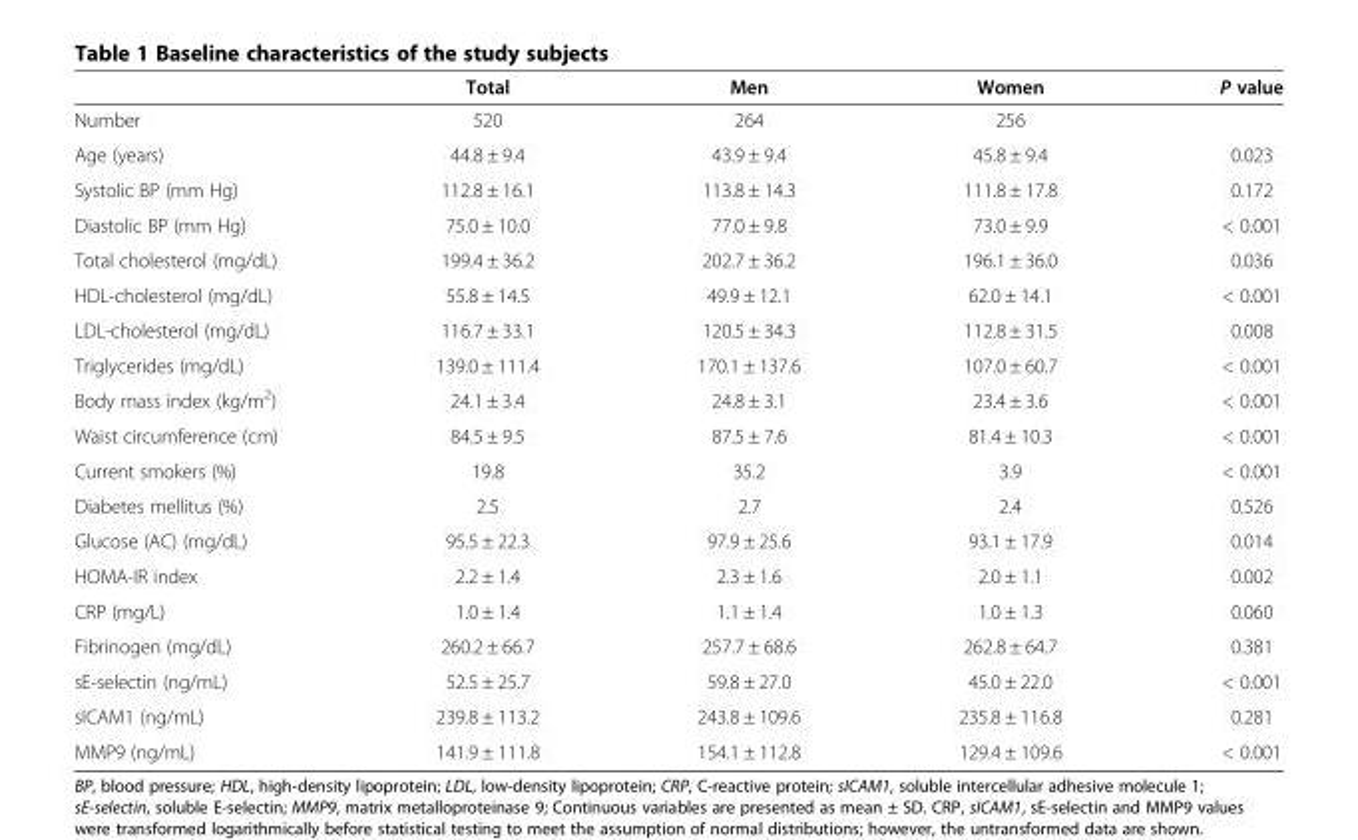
<table><thead><tr><td></td><td>Total</td><td>Men</td><td>Women</td><td>P value</td></tr></thead><tbody><tr><td>Number</td><td>520</td><td>264</td><td>256</td><td></td></tr><tr><td>Age (years)</td><td>44.8 ± 9.4</td><td>43.9 ± 9.4</td><td>45.8 ± 9.4</td><td>0.023</td></tr><tr><td>Systolic BP (mm Hg)</td><td>112.8 ± 16.1</td><td>113.8 ± 14.3</td><td>111.8 ± 17.8</td><td>0.172</td></tr><tr><td>Diastolic BP (mm Hg)</td><td>75.0 ± 10.0</td><td>77.0 ± 9.8</td><td>73.0 ± 9.9</td><td>&lt; 0.001</td></tr><tr><td>Total cholesterol (mg/dL)</td><td>199.4 ± 36.2</td><td>202.7 ± 36.2</td><td>196.1 ± 36.0</td><td>0.036</td></tr><tr><td>HDL-cholesterol (mg/dL)</td><td>55.8 ± 14.5</td><td>49.9 ± 12.1</td><td>62.0 ± 14.1</td><td>&lt; 0.001</td></tr><tr><td>LDL-cholesterol (mg/dL)</td><td>116.7 ± 33.1</td><td>120.5 ± 34.3</td><td>112.8 ± 31.5</td><td>0.008</td></tr><tr><td>Triglycerides (mg/dL)</td><td>139.0 ± 111.4</td><td>170.1 ± 137.6</td><td>107.0 ± 60.7</td><td>&lt; 0.001</td></tr><tr><td>Body mass index (kg/m<sup>2</sup>)</td><td>24.1 ± 3.4</td><td>24.8 ± 3.1</td><td>23.4 ± 3.6</td><td>&lt; 0.001</td></tr><tr><td>Waist circumference (cm)</td><td>84.5 ± 9.5</td><td>87.5 ± 7.6</td><td>81.4 ± 10.3</td><td>&lt; 0.001</td></tr><tr><td>Current smokers (%)</td><td>19.8</td><td>35.2</td><td>3.9</td><td>&lt; 0.001</td></tr><tr><td>Diabetes mellitus (%)</td><td>2.5</td><td>2.7</td><td>2.4</td><td>0.526</td></tr><tr><td>Glucose (AC) (mg/dL)</td><td>95.5 ± 22.3</td><td>97.9 ± 25.6</td><td>93.1 ± 17.9</td><td>0.014</td></tr><tr><td>HOMA-IR index</td><td>2.2 ± 1.4</td><td>2.3 ± 1.6</td><td>2.0 ± 1.1</td><td>0.002</td></tr><tr><td>CRP (mg/L)</td><td>1.0 ± 1.4</td><td>1.1 ± 1.4</td><td>1.0 ± 1.3</td><td>0.060</td></tr><tr><td>Fibrinogen (mg/dL)</td><td>260.2 ± 66.7</td><td>257.7 ± 68.6</td><td>262.8 ± 64.7</td><td>0.381</td></tr><tr><td>sE-selectin (ng/mL)</td><td>52.5 ± 25.7</td><td>59.8 ± 27.0</td><td>45.0 ± 22.0</td><td>&lt; 0.001</td></tr><tr><td>sICAM1 (ng/mL)</td><td>239.8 ± 113.2</td><td>243.8 ± 109.6</td><td>235.8 ± 116.8</td><td>0.281</td></tr><tr><td>MMP9 (ng/mL)</td><td>141.9 ± 111.8</td><td>154.1 ± 112.8</td><td>129.4 ± 109.6</td><td>&lt; 0.001</td></tr></tbody></table>